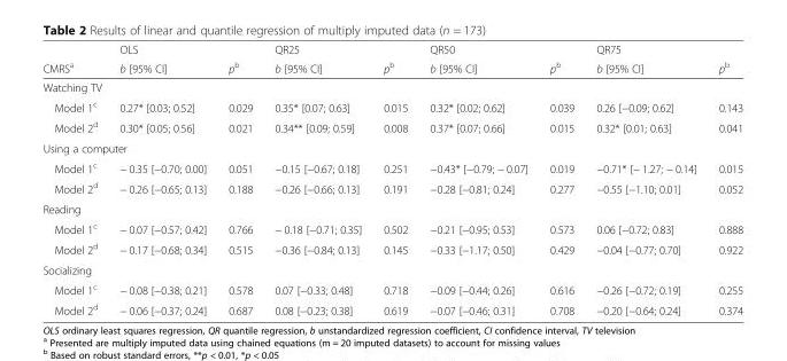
<table><thead><tr><td rowspan="2">CMRS<sup>a</sup></td><td rowspan="2">OLS b [95% CI]</td><td rowspan="2">p<sup>b</sup></td><td rowspan="2">QR25 b [95% CI]</td><td rowspan="2">p<sup>b</sup></td><td rowspan="2">QR50 b [95% CI]</td><td rowspan="2">p<sup>b</sup></td><td rowspan="2">QR75 b [95% CI]</td><td rowspan="2">p<sup>b</sup></td></tr><tr></tr></thead><tbody><tr><td colspan="9">Watching TV</td></tr><tr><td>Model 1<sup>c</sup></td><td>0.27* [0.03; 0.52]</td><td>0.029</td><td>0.35* [0.07; 0.63]</td><td>0.015</td><td>0.32* [0.02; 0.62]</td><td>0.039</td><td>0.26 [−0.09; 0.62]</td><td>0.143</td></tr><tr><td>Model 2<sup>d</sup></td><td>0.30* [0.05; 0.56]</td><td>0.021</td><td>0.34** [0.09; 0.59]</td><td>0.008</td><td>0.37* [0.07; 0.66]</td><td>0.015</td><td>0.32* [0.01; 0.63]</td><td>0.041</td></tr><tr><td colspan="9">Using a computer</td></tr><tr><td>Model 1<sup>c</sup></td><td>− 0.35 [−0.70; 0.00]</td><td>0.051</td><td>−0.15 [−0.67; 0.18]</td><td>0.251</td><td>−0.43* [−0.79; − 0.07]</td><td>0.019</td><td>−0.71* [− 1.27; − 0.14]</td><td>0.015</td></tr><tr><td>Model 2<sup>d</sup></td><td>− 0.26 [−0.65; 0.13]</td><td>0.188</td><td>−0.26 [−0.66; 0.13]</td><td>0.191</td><td>−0.28 [−0.81; 0.24]</td><td>0.277</td><td>−0.55 [−1.10; 0.01]</td><td>0.052</td></tr><tr><td colspan="9">Reading</td></tr><tr><td>Model 1<sup>c</sup></td><td>− 0.07 [−0.57; 0.42]</td><td>0.766</td><td>− 0.18 [−0.71; 0.35]</td><td>0.502</td><td>−0.21 [−0.95; 0.53]</td><td>0.573</td><td>0.06 [−0.72; 0.83]</td><td>0.888</td></tr><tr><td>Model 2<sup>d</sup></td><td>− 0.17 [−0.68; 0.34]</td><td>0.515</td><td>−0.36 [−0.84; 0.13]</td><td>0.145</td><td>−0.33 [−1.17; 0.50]</td><td>0.429</td><td>−0.04 [−0.77; 0.70]</td><td>0.922</td></tr><tr><td colspan="9">Socializing</td></tr><tr><td>Model 1<sup>c</sup></td><td>− 0.08 [−0.38; 0.21]</td><td>0.578</td><td>0.07 [−0.33; 0.48]</td><td>0.718</td><td>−0.09 [−0.44; 0.26]</td><td>0.616</td><td>−0.26 [−0.72; 0.19]</td><td>0.255</td></tr><tr><td>Model 2<sup>d</sup></td><td>− 0.06 [−0.37; 0.24]</td><td>0.687</td><td>0.08 [−0.23; 0.38]</td><td>0.619</td><td>−0.07 [−0.46; 0.31]</td><td>0.708</td><td>−0.20 [−0.64; 0.24]</td><td>0.374</td></tr></tbody></table>